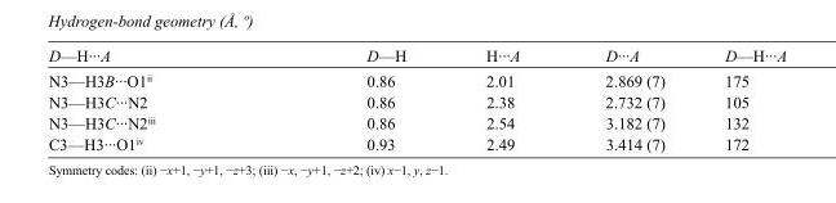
<table><tbody><tr><td>D—H···A</td><td>D—H</td><td>H···A</td><td>D···A</td><td>D—H···A</td></tr><tr><td>N3—H3B···O1<sup>ii</sup></td><td>0.86</td><td>2.01</td><td>2.869 (7)</td><td>175</td></tr><tr><td>N3—H3C···N2</td><td>0.86</td><td>2.38</td><td>2.732 (7)</td><td>105</td></tr><tr><td>N3—H3C···N2<sup>iii</sup></td><td>0.86</td><td>2.54</td><td>3.182 (7)</td><td>132</td></tr><tr><td>C3—H3···O1<sup>iv</sup></td><td>0.93</td><td>2.49</td><td>3.414 (7)</td><td>172</td></tr></tbody></table>